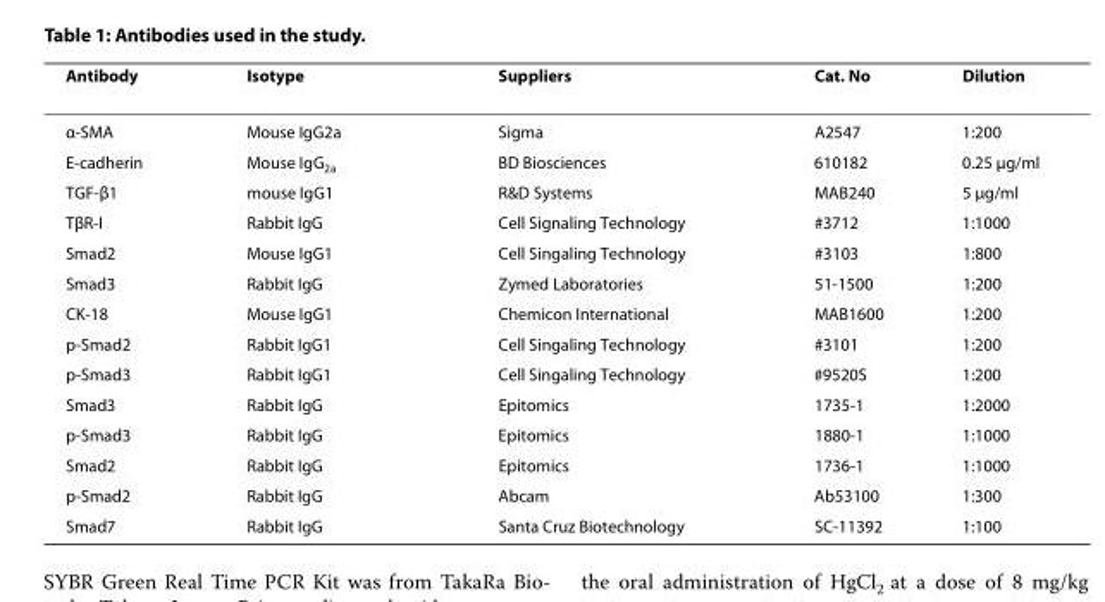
<table><thead><tr><td>Antibody</td><td>Isotype</td><td>Suppliers</td><td>Cat. No</td><td>Dilution</td></tr></thead><tbody><tr><td>α-SMA</td><td>Mouse IgG2a</td><td>Sigma</td><td>A2547</td><td>1:200</td></tr><tr><td>E-cadherin</td><td>Mouse IgG<sub>2a</sub></td><td>BD Biosciences</td><td>610182</td><td>0.25 μg/ml</td></tr><tr><td>TGF-β1</td><td>mouse IgG1</td><td>R&amp;D Systems</td><td>MAB240</td><td>5 μg/ml</td></tr><tr><td>TβR-I</td><td>Rabbit IgG</td><td>Cell Signaling Technology</td><td>#3712</td><td>1:1000</td></tr><tr><td>Smad2</td><td>Mouse IgG1</td><td>Cell Singaling Technology</td><td>#3103</td><td>1:800</td></tr><tr><td>Smad3</td><td>Rabbit IgG</td><td>Zymed Laboratories</td><td>51-1500</td><td>1:200</td></tr><tr><td>CK-18</td><td>Mouse IgG1</td><td>Chemicon International</td><td>MAB1600</td><td>1:200</td></tr><tr><td>p-Smad2</td><td>Rabbit IgG1</td><td>Cell Singaling Technology</td><td>#3101</td><td>1:200</td></tr><tr><td>p-Smad3</td><td>Rabbit IgG1</td><td>Cell Singaling Technology</td><td>#9520S</td><td>1:200</td></tr><tr><td>Smad3</td><td>Rabbit IgG</td><td>Epitomics</td><td>1735-1</td><td>1:2000</td></tr><tr><td>p-Smad3</td><td>Rabbit IgG</td><td>Epitomics</td><td>1880-1</td><td>1:1000</td></tr><tr><td>Smad2</td><td>Rabbit IgG</td><td>Epitomics</td><td>1736-1</td><td>1:1000</td></tr><tr><td>p-Smad2</td><td>Rabbit IgG</td><td>Abcam</td><td>Ab53100</td><td>1:300</td></tr><tr><td>Smad7</td><td>Rabbit IgG</td><td>Santa Cruz Biotechnology</td><td>SC-11392</td><td>1:100</td></tr></tbody></table>